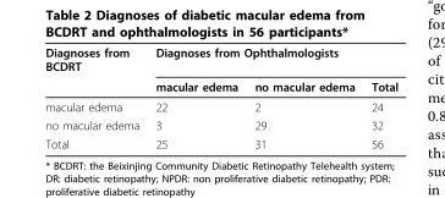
<table><thead><tr><td rowspan="2">Diagnoses from BCDRT</td><td colspan="3">Diagnoses from Ophthalmologists</td></tr><tr><td>macular edema</td><td>no macular edema</td><td>Total</td></tr></thead><tbody><tr><td>macular edema</td><td>22</td><td>2</td><td>24</td></tr><tr><td>no macular edema</td><td>3</td><td>29</td><td>32</td></tr><tr><td>Total</td><td>25</td><td>31</td><td>56</td></tr></tbody></table>